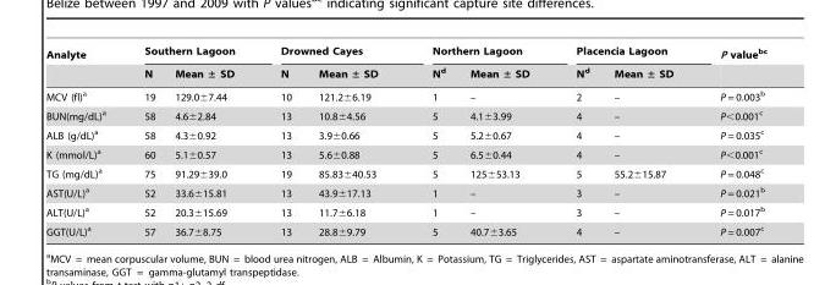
<table><thead><tr><td rowspan="2">Analyte</td><td colspan="2">Southern Lagoon</td><td colspan="2">Drowned Cayes</td><td colspan="2">Northern Lagoon</td><td colspan="2">Placencia Lagoon</td><td rowspan="2">P value<sup>bc</sup></td></tr><tr><td>N</td><td>Mean ± SD</td><td>N</td><td>Mean ± SD</td><td>N<sup>d</sup></td><td>Mean ± SD</td><td>N<sup>d</sup></td><td>Mean ± SD</td></tr></thead><tbody><tr><td>MCV (fl)<sup>a</sup></td><td>19</td><td>129.0±7.44</td><td>10</td><td>121.2±6.19</td><td>1</td><td>–</td><td>2</td><td>–</td><td>P = 0.003<sup>b</sup></td></tr><tr><td>BUN(mg/dL)<sup>a</sup></td><td>58</td><td>4.6±2.84</td><td>13</td><td>10.8±4.56</td><td>5</td><td>4.1±3.99</td><td>4</td><td>–</td><td>P&lt;0.001<sup>c</sup></td></tr><tr><td>ALB (g/dL)<sup>a</sup></td><td>58</td><td>4.3±0.92</td><td>13</td><td>3.9±0.66</td><td>5</td><td>5.2±0.67</td><td>4</td><td>–</td><td>P = 0.035<sup>c</sup></td></tr><tr><td>K (mmol/L)<sup>a</sup></td><td>60</td><td>5.1±0.57</td><td>13</td><td>5.6±0.88</td><td>5</td><td>6.5±0.44</td><td>4</td><td>–</td><td>P&lt;0.001<sup>c</sup></td></tr><tr><td>TG (mg/dL)<sup>a</sup></td><td>75</td><td>91.29±39.0</td><td>19</td><td>85.83±40.53</td><td>5</td><td>125±53.13</td><td>5</td><td>55.2±15.87</td><td>P = 0.048<sup>c</sup></td></tr><tr><td>AST(U/L)<sup>a</sup></td><td>52</td><td>33.6±15.81</td><td>13</td><td>43.9±17.13</td><td>1</td><td>–</td><td>3</td><td>–</td><td>P = 0.021<sup>b</sup></td></tr><tr><td>ALT(U/L)<sup>a</sup></td><td>52</td><td>20.3±15.69</td><td>13</td><td>11.7±6.18</td><td>1</td><td>–</td><td>3</td><td>–</td><td>P = 0.017<sup>b</sup></td></tr><tr><td>GGT(U/L)<sup>a</sup></td><td>57</td><td>36.7±8.75</td><td>13</td><td>28.8±9.79</td><td>5</td><td>40.7±3.65</td><td>4</td><td>–</td><td>P = 0.007<sup>c</sup></td></tr></tbody></table>